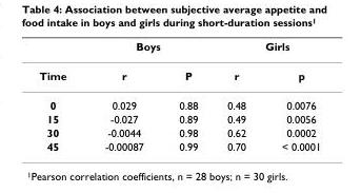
<table><thead><tr><td rowspan="2">Time</td><td colspan="2">Boys</td><td colspan="2">Girls</td></tr><tr><td>r</td><td>P</td><td>r</td><td>p</td></tr></thead><tbody><tr><td>0</td><td>0.029</td><td>0.88</td><td>0.48</td><td>0.0076</td></tr><tr><td>15</td><td>-0.027</td><td>0.89</td><td>0.49</td><td>0.0056</td></tr><tr><td>30</td><td>-0.0044</td><td>0.98</td><td>0.62</td><td>0.0002</td></tr><tr><td>45</td><td>-0.00087</td><td>0.99</td><td>0.70</td><td>&lt; 0.0001</td></tr></tbody></table>